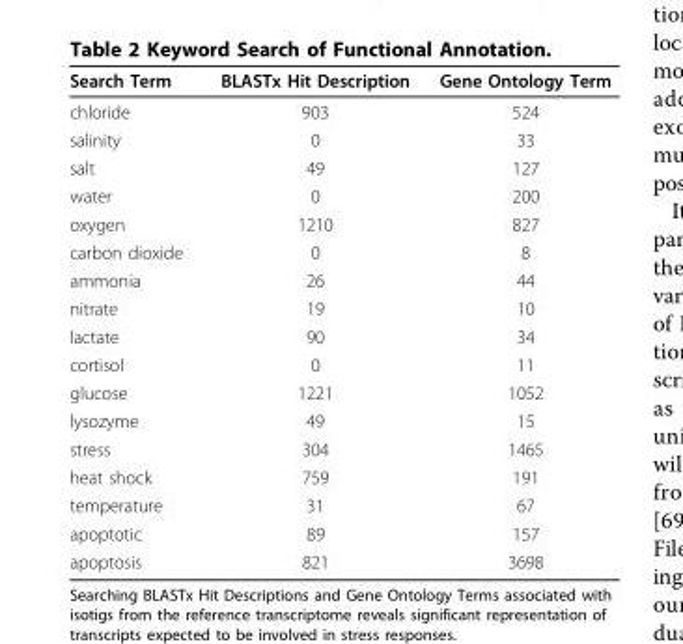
<table><thead><tr><td>Search Term</td><td>BLASTx Hit Description</td><td>Gene Ontology Term</td></tr></thead><tbody><tr><td>chloride</td><td>903</td><td>524</td></tr><tr><td>salinity</td><td>0</td><td>33</td></tr><tr><td>salt</td><td>49</td><td>127</td></tr><tr><td>water</td><td>0</td><td>200</td></tr><tr><td>oxygen</td><td>1210</td><td>827</td></tr><tr><td>carbon dioxide</td><td>0</td><td>8</td></tr><tr><td>ammonia</td><td>26</td><td>44</td></tr><tr><td>nitrate</td><td>19</td><td>10</td></tr><tr><td>lactate</td><td>90</td><td>34</td></tr><tr><td>cortisol</td><td>0</td><td>11</td></tr><tr><td>glucose</td><td>1221</td><td>1052</td></tr><tr><td>lysozyme</td><td>49</td><td>15</td></tr><tr><td>stress</td><td>304</td><td>1465</td></tr><tr><td>heat shock</td><td>759</td><td>191</td></tr><tr><td>temperature</td><td>31</td><td>67</td></tr><tr><td>apoptotic</td><td>89</td><td>157</td></tr><tr><td>apoptosis</td><td>821</td><td>3698</td></tr></tbody></table>